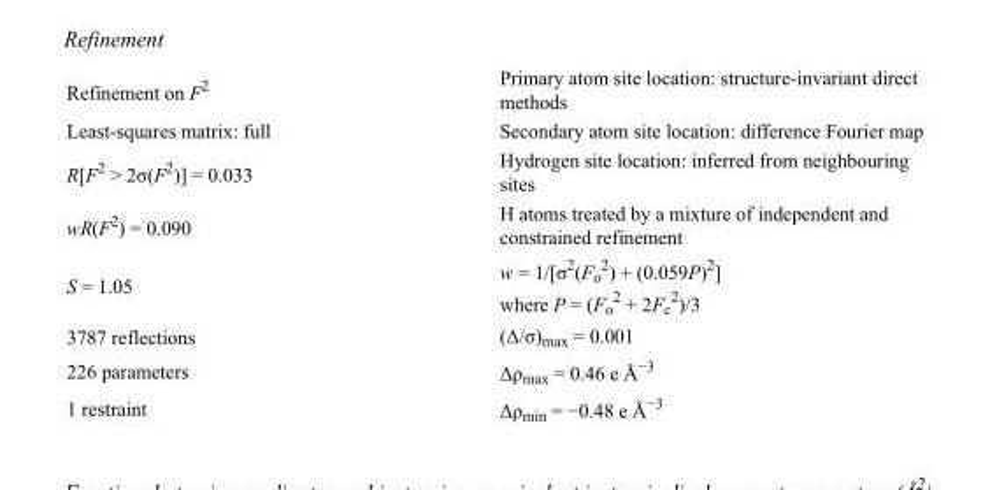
<table><tbody><tr><td>Refinement on F<sup>2</sup></td><td>Primary atom site location: structure-invariant direct methods</td></tr><tr><td>Least-squares matrix: full</td><td>Secondary atom site location: difference Fourier map</td></tr><tr><td>R[F<sup>2</sup> &gt; 2σ(F<sup>2</sup>)] = 0.033</td><td>Hydrogen site location: inferred from neighbouring sites</td></tr><tr><td>wR(F<sup>2</sup>) = 0.090</td><td>H atoms treated by a mixture of independent and constrained refinement</td></tr><tr><td>S = 1.05</td><td>w = 1/[σ<sup>2</sup>(F<sub>o</sub> <sup>2</sup>) + (0.059P)<sup>2</sup>] where P = (F<sub>o</sub> <sup>2</sup> + 2F<sub>c</sub> <sup>2</sup>)/3</td></tr><tr><td>3787 reflections</td><td>(Δ/σ)<sub>max</sub> = 0.001</td></tr><tr><td>226 parameters</td><td>Δρ<sub>max</sub> = 0.46 e Å<sup>−3</sup></td></tr><tr><td>1 restraint</td><td>Δρ<sub>min</sub> = −0.48 e Å<sup>−3</sup></td></tr></tbody></table>